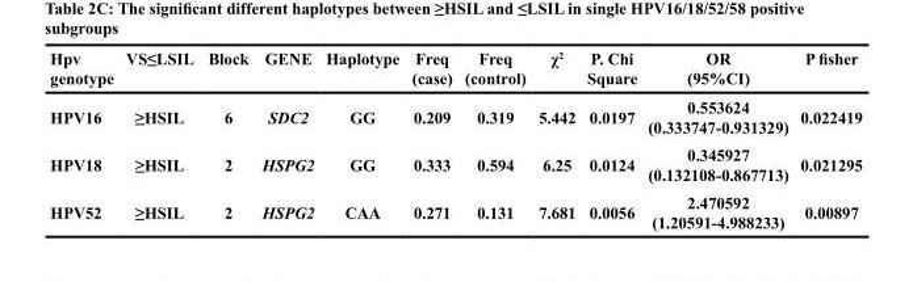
<table><thead><tr><td>Hpv genotype</td><td>VS≤LSIL</td><td>Block</td><td>GENE</td><td>Haplotype</td><td>Freq (case)</td><td>Freq (control)</td><td>χ<sup>2</sup></td><td>P. Chi Square</td><td>OR (95%CI)</td><td>P fisher</td></tr></thead><tbody><tr><td>HPV16</td><td>≥HSIL</td><td>6</td><td>SDC2</td><td>GG</td><td>0.209</td><td>0.319</td><td>5.442</td><td>0.0197</td><td>0.553624 (0.333747-0.931329)</td><td>0.022419</td></tr><tr><td>HPV18</td><td>≥HSIL</td><td>2</td><td>HSPG2</td><td>GG</td><td>0.333</td><td>0.594</td><td>6.25</td><td>0.0124</td><td>0.345927 (0.132108-0.867713)</td><td>0.021295</td></tr><tr><td>HPV52</td><td>≥HSIL</td><td>2</td><td>HSPG2</td><td>CAA</td><td>0.271</td><td>0.131</td><td>7.681</td><td>0.0056</td><td>2.470592 (1.20591-4.988233)</td><td>0.00897</td></tr></tbody></table>